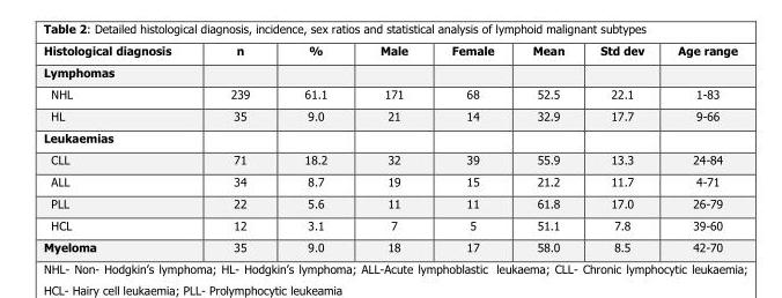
<table><thead><tr><td>Histological diagnosis</td><td>n</td><td>%</td><td>Male</td><td>Female</td><td>Mean</td><td>Std dev</td><td>Age range</td></tr></thead><tbody><tr><td colspan="8">Lymphomas</td></tr><tr><td>NHL</td><td>239</td><td>61.1</td><td>171</td><td>68</td><td>52.5</td><td>22.1</td><td>1-83</td></tr><tr><td>HL</td><td>35</td><td>9.0</td><td>21</td><td>14</td><td>32.9</td><td>17.7</td><td>9-66</td></tr><tr><td colspan="8">Leukaemias</td></tr><tr><td>CLL</td><td>71</td><td>18.2</td><td>32</td><td>39</td><td>55.9</td><td>13.3</td><td>24-84</td></tr><tr><td>ALL</td><td>34</td><td>8.7</td><td>19</td><td>15</td><td>21.2</td><td>11.7</td><td>4-71</td></tr><tr><td>PLL</td><td>22</td><td>5.6</td><td>11</td><td>11</td><td>61.8</td><td>17.0</td><td>26-79</td></tr><tr><td>HCL</td><td>12</td><td>3.1</td><td>7</td><td>5</td><td>51.1</td><td>7.8</td><td>39-60</td></tr><tr><td>Myeloma</td><td>35</td><td>9.0</td><td>18</td><td>17</td><td>58.0</td><td>8.5</td><td>42-70</td></tr></tbody></table>